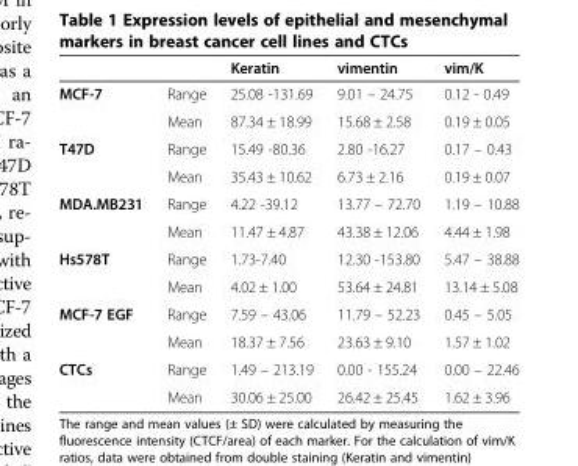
<table><thead><tr><td></td><td></td><td>Keratin</td><td>vimentin</td><td>vim/K</td></tr></thead><tbody><tr><td rowspan="2">MCF-7</td><td>Range</td><td>25.08 -131.69</td><td>9.01 – 24.75</td><td>0.12 - 0.49</td></tr><tr><td>Mean</td><td>87.34 ± 18.99</td><td>15.68 ± 2.58</td><td>0.19 ± 0.05</td></tr><tr><td rowspan="2">T47D</td><td>Range</td><td>15.49 -80.36</td><td>2.80 -16.27</td><td>0.17 – 0.43</td></tr><tr><td>Mean</td><td>35.43 ± 10.62</td><td>6.73 ± 2.16</td><td>0.19 ± 0.07</td></tr><tr><td rowspan="2">MDA.MB231</td><td>Range</td><td>4.22 -39.12</td><td>13.77 – 72.70</td><td>1.19 – 10.88</td></tr><tr><td>Mean</td><td>11.47 ± 4.87</td><td>43.38 ± 12.06</td><td>4.44 ± 1.98</td></tr><tr><td rowspan="2">Hs578T</td><td>Range</td><td>1.73-7.40</td><td>12.30 -153.80</td><td>5.47 – 38.88</td></tr><tr><td>Mean</td><td>4.02 ± 1.00</td><td>53.64 ± 24.81</td><td>13.14 ± 5.08</td></tr><tr><td rowspan="2">MCF-7 EGF</td><td>Range</td><td>7.59 – 43.06</td><td>11.79 – 52.23</td><td>0.45 – 5.05</td></tr><tr><td>Mean</td><td>18.37 ± 7.56</td><td>23.63 ± 9.10</td><td>1.57 ± 1.02</td></tr><tr><td rowspan="2">CTCs</td><td>Range</td><td>1.49 – 213.19</td><td>0.00 - 155.24</td><td>0.00 – 22.46</td></tr><tr><td>Mean</td><td>30.06 ± 25.00</td><td>26.42 ± 25.45</td><td>1.62 ± 3.96</td></tr></tbody></table>